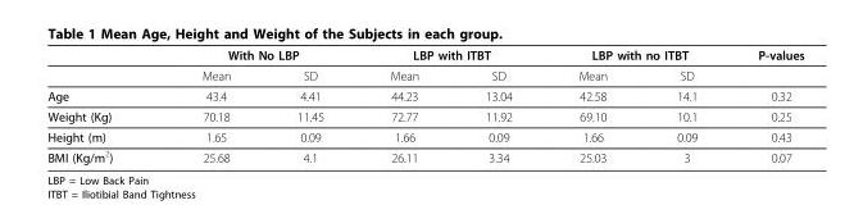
<table><thead><tr><td rowspan="2"></td><td colspan="2">With No LBP</td><td colspan="2">LBP with ITBT</td><td colspan="2">LBP with no ITBT</td><td rowspan="2">P-values</td></tr><tr><td>Mean</td><td>SD</td><td>Mean</td><td>SD</td><td>Mean</td><td>SD</td></tr></thead><tbody><tr><td>Age</td><td>43.4</td><td>4.41</td><td>44.23</td><td>13.04</td><td>42.58</td><td>14.1</td><td>0.32</td></tr><tr><td>Weight (Kg)</td><td>70.18</td><td>11.45</td><td>72.77</td><td>11.92</td><td>69.10</td><td>10.1</td><td>0.25</td></tr><tr><td>Height (m)</td><td>1.65</td><td>0.09</td><td>1.66</td><td>0.09</td><td>1.66</td><td>0.09</td><td>0.43</td></tr><tr><td>BMI (Kg/m<sup>2</sup>)</td><td>25.68</td><td>4.1</td><td>26.11</td><td>3.34</td><td>25.03</td><td>3</td><td>0.07</td></tr></tbody></table>